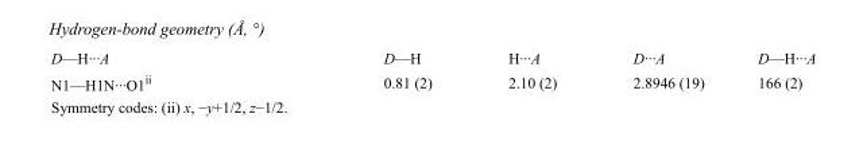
<table><tbody><tr><td>D—H···A</td><td>D—H</td><td>H···A</td><td>D···A</td><td>D—H···A</td></tr><tr><td>N1—H1N···O1<sup>ii</sup></td><td>0.81 (2)</td><td>2.10 (2)</td><td>2.8946 (19)</td><td>166 (2)</td></tr></tbody></table>